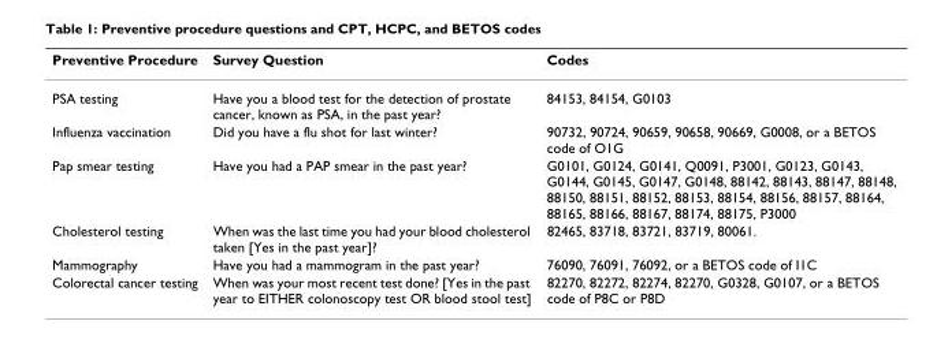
<table><thead><tr><td>Preventive Procedure</td><td>Survey Question</td><td>Codes</td></tr></thead><tbody><tr><td>PSA testing</td><td>Have you a blood test for the detection of prostate cancer, known as PSA, in the past year?</td><td>84153, 84154, G0103</td></tr><tr><td>Influenza vaccination</td><td>Did you have a flu shot for last winter?</td><td>90732, 90724, 90659, 90658, 90669, G0008, or a BETOS code of O1G</td></tr><tr><td>Pap smear testing</td><td>Have you had a PAP smear in the past year?</td><td>G0101, G0124, G0141, Q0091, P3001, G0123, G0143, G0144, G0145, G0147, G0148, 88142, 88143, 88147, 88148, 88150, 88151, 88152, 88153, 88154, 88156, 88157, 88164, 88165, 88166, 88167, 88174, 88175, P3000</td></tr><tr><td>Cholesterol testing</td><td>When was the last time you had your blood cholesterol taken [Yes in the past year]?</td><td>82465, 83718, 83721, 83719, 80061.</td></tr><tr><td>Mammography</td><td>Have you had a mammogram in the past year?</td><td>76090, 76091, 76092, or a BETOS code of I1C</td></tr><tr><td>Colorectal cancer testing</td><td>When was your most recent test done? [Yes in the past year to EITHER colonoscopy test OR blood stool test]</td><td>82270, 82272, 82274, 82270, G0328, G0107, or a BETOS code of P8C or P8D</td></tr></tbody></table>